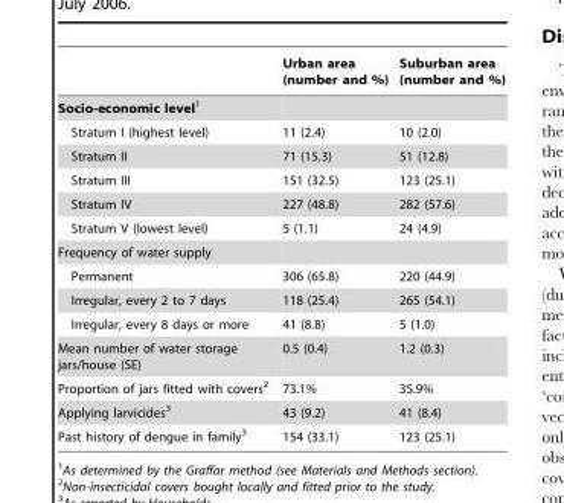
<table><thead><tr><td></td><td>Urban area (number and %)</td><td>Suburban area (number and %)</td></tr></thead><tbody><tr><td colspan="3">Socio-economic level1</td></tr><tr><td>Stratum I (highest level)</td><td>11 (2.4)</td><td>10 (2.0)</td></tr><tr><td>Stratum II</td><td>71 (15.3)</td><td>51 (12.8)</td></tr><tr><td>Stratum III</td><td>151 (32.5)</td><td>123 (25.1)</td></tr><tr><td>Stratum IV</td><td>227 (48.8)</td><td>282 (57.6)</td></tr><tr><td>Stratum V (lowest level)</td><td>5 (1.1)</td><td>24 (4.9)</td></tr><tr><td colspan="3">Frequency of water supply</td></tr><tr><td>Permanent</td><td>306 (65.8)</td><td>220 (44.9)</td></tr><tr><td>Irregular, every 2 to 7 days</td><td>118 (25.4)</td><td>265 (54.1)</td></tr><tr><td>Irregular, every 8 days or more</td><td>41 (8.8)</td><td>5 (1.0)</td></tr><tr><td>Mean number of water storage jars/house (SE)</td><td>0.5 (0.4)</td><td>1.2 (0.3)</td></tr><tr><td>Proportion of jars fitted with covers<sup>2</sup></td><td>73.1%</td><td>35.9%</td></tr><tr><td>Applying larvicides<sup>3</sup></td><td>43 (9.2)</td><td>41 (8.4)</td></tr><tr><td>Past history of dengue in family<sup>3</sup></td><td>154 (33.1)</td><td>123 (25.1)</td></tr></tbody></table>